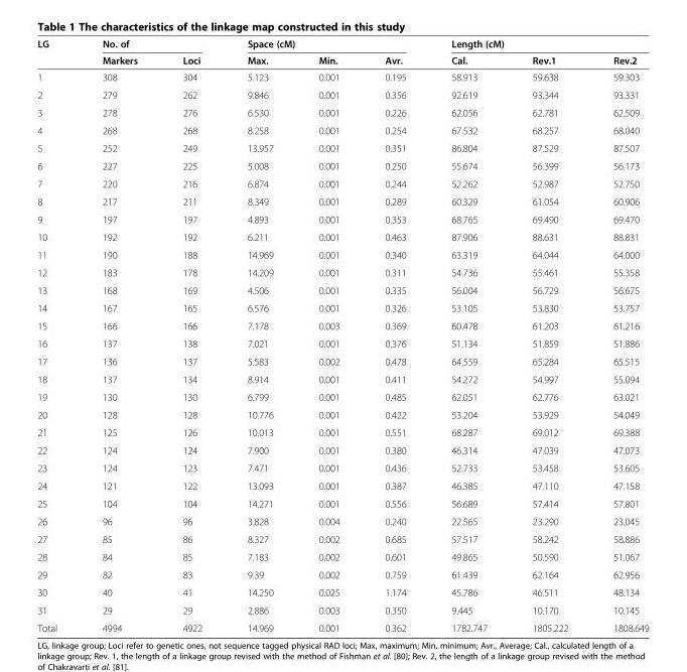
<table><thead><tr><td rowspan="2">LG</td><td colspan="2">No. of</td><td colspan="3">Space (cM)</td><td colspan="3">Length (cM)</td></tr><tr><td>Markers</td><td>Loci</td><td>Max.</td><td>Min.</td><td>Avr.</td><td>Cal.</td><td>Rev.1</td><td>Rev.2</td></tr></thead><tbody><tr><td>1</td><td>308</td><td>304</td><td>5.123</td><td>0.001</td><td>0.195</td><td>58.913</td><td>59.638</td><td>59.303</td></tr><tr><td>2</td><td>279</td><td>262</td><td>9.846</td><td>0.001</td><td>0.356</td><td>92.619</td><td>93.344</td><td>93.331</td></tr><tr><td>3</td><td>278</td><td>276</td><td>6.530</td><td>0.001</td><td>0.226</td><td>62.056</td><td>62.781</td><td>62.509</td></tr><tr><td>4</td><td>268</td><td>268</td><td>8.258</td><td>0.001</td><td>0.254</td><td>67.532</td><td>68.257</td><td>68.040</td></tr><tr><td>5</td><td>252</td><td>249</td><td>13.957</td><td>0.001</td><td>0.351</td><td>86.804</td><td>87.529</td><td>87.507</td></tr><tr><td>6</td><td>227</td><td>225</td><td>5.008</td><td>0.001</td><td>0.250</td><td>55.674</td><td>56.399</td><td>56.173</td></tr><tr><td>7</td><td>220</td><td>216</td><td>6.874</td><td>0.001</td><td>0.244</td><td>52.262</td><td>52.987</td><td>52.750</td></tr><tr><td>8</td><td>217</td><td>211</td><td>8.349</td><td>0.001</td><td>0.289</td><td>60.329</td><td>61.054</td><td>60.906</td></tr><tr><td>9</td><td>197</td><td>197</td><td>4.893</td><td>0.001</td><td>0.353</td><td>68.765</td><td>69.490</td><td>69.470</td></tr><tr><td>10</td><td>192</td><td>192</td><td>6.211</td><td>0.001</td><td>0.463</td><td>87.906</td><td>88.631</td><td>88.831</td></tr><tr><td>11</td><td>190</td><td>188</td><td>14.969</td><td>0.001</td><td>0.340</td><td>63.319</td><td>64.044</td><td>64.000</td></tr><tr><td>12</td><td>183</td><td>178</td><td>14.209</td><td>0.001</td><td>0.311</td><td>54.736</td><td>55.461</td><td>55.358</td></tr><tr><td>13</td><td>168</td><td>169</td><td>4.506</td><td>0.001</td><td>0.335</td><td>56.004</td><td>56.729</td><td>56.675</td></tr><tr><td>14</td><td>167</td><td>165</td><td>6.576</td><td>0.001</td><td>0.326</td><td>53.105</td><td>53.830</td><td>53.757</td></tr><tr><td>15</td><td>166</td><td>166</td><td>7.178</td><td>0.003</td><td>0.369</td><td>60.478</td><td>61.203</td><td>61.216</td></tr><tr><td>16</td><td>137</td><td>138</td><td>7.021</td><td>0.001</td><td>0.376</td><td>51.134</td><td>51.859</td><td>51.886</td></tr><tr><td>17</td><td>136</td><td>137</td><td>5.583</td><td>0.002</td><td>0.478</td><td>64.559</td><td>65.284</td><td>65.515</td></tr><tr><td>18</td><td>137</td><td>134</td><td>8.914</td><td>0.001</td><td>0.411</td><td>54.272</td><td>54.997</td><td>55.094</td></tr><tr><td>19</td><td>130</td><td>130</td><td>6.799</td><td>0.001</td><td>0.485</td><td>62.051</td><td>62.776</td><td>63.021</td></tr><tr><td>20</td><td>128</td><td>128</td><td>10.776</td><td>0.001</td><td>0.422</td><td>53.204</td><td>53.929</td><td>54.049</td></tr><tr><td>21</td><td>125</td><td>126</td><td>10.013</td><td>0.001</td><td>0.551</td><td>68.287</td><td>69.012</td><td>69.388</td></tr><tr><td>22</td><td>124</td><td>124</td><td>7.900</td><td>0.001</td><td>0.380</td><td>46.314</td><td>47.039</td><td>47.073</td></tr><tr><td>23</td><td>124</td><td>123</td><td>7.471</td><td>0.001</td><td>0.436</td><td>52.733</td><td>53.458</td><td>53.605</td></tr><tr><td>24</td><td>121</td><td>122</td><td>13.093</td><td>0.001</td><td>0.387</td><td>46.385</td><td>47.110</td><td>47.158</td></tr><tr><td>25</td><td>104</td><td>104</td><td>14.271</td><td>0.001</td><td>0.556</td><td>56.689</td><td>57.414</td><td>57.801</td></tr><tr><td>26</td><td>96</td><td>96</td><td>3.828</td><td>0.004</td><td>0.240</td><td>22.565</td><td>23.290</td><td>23.045</td></tr><tr><td>27</td><td>85</td><td>86</td><td>8.327</td><td>0.002</td><td>0.685</td><td>57.517</td><td>58.242</td><td>58.886</td></tr><tr><td>28</td><td>84</td><td>85</td><td>7.183</td><td>0.002</td><td>0.601</td><td>49.865</td><td>50.590</td><td>51.067</td></tr><tr><td>29</td><td>82</td><td>83</td><td>9.39</td><td>0.002</td><td>0.759</td><td>61.439</td><td>62.164</td><td>62.956</td></tr><tr><td>30</td><td>40</td><td>41</td><td>14.250</td><td>0.025</td><td>1.174</td><td>45.786</td><td>46.511</td><td>48.134</td></tr><tr><td>31</td><td>29</td><td>29</td><td>2.886</td><td>0.003</td><td>0.350</td><td>9.445</td><td>10.170</td><td>10.145</td></tr><tr><td>Total</td><td>4994</td><td>4922</td><td>14.969</td><td>0.001</td><td>0.362</td><td>1782.747</td><td>1805.222</td><td>1808.649</td></tr></tbody></table>